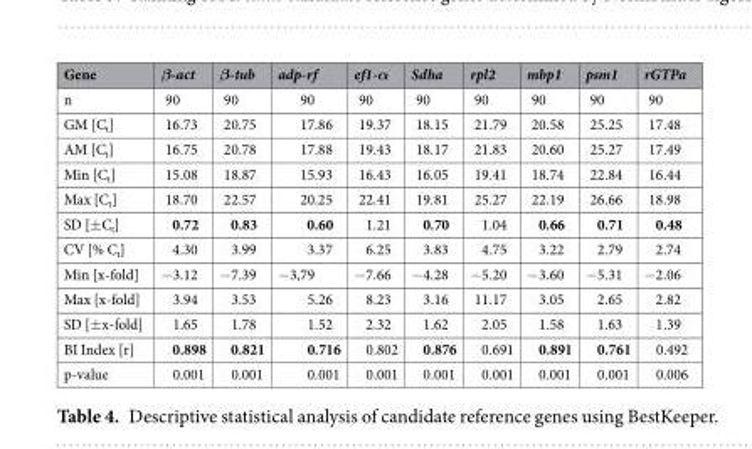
<table><thead><tr><td>Gene</td><td>β-act</td><td>β-tub</td><td>adp-rf</td><td>ef1-α</td><td>Sdha</td><td>rpl2</td><td>mbp1</td><td>psm1</td><td>rGTPa</td></tr></thead><tbody><tr><td>n</td><td>90</td><td>90</td><td>90</td><td>90</td><td>90</td><td>90</td><td>90</td><td>90</td><td>90</td></tr><tr><td>GM [C<sub>t</sub>]</td><td>16.73</td><td>20.75</td><td>17.86</td><td>19.37</td><td>18.15</td><td>21.79</td><td>20.58</td><td>25.25</td><td>17.48</td></tr><tr><td>AM [C<sub>t</sub>]</td><td>16.75</td><td>20.78</td><td>17.88</td><td>19.43</td><td>18.17</td><td>21.83</td><td>20.60</td><td>25.27</td><td>17.49</td></tr><tr><td>Min [C<sub>t</sub>]</td><td>15.08</td><td>18.87</td><td>15.93</td><td>16.43</td><td>16.05</td><td>19.41</td><td>18.74</td><td>22.84</td><td>16.44</td></tr><tr><td>Max [C<sub>t</sub>]</td><td>18.70</td><td>22.57</td><td>20.25</td><td>22.41</td><td>19.81</td><td>25.27</td><td>22.19</td><td>26.66</td><td>18.98</td></tr><tr><td>SD [±C<sub>t</sub>]</td><td>0.72</td><td>0.83</td><td>0.60</td><td>1.21</td><td>0.70</td><td>1.04</td><td>0.66</td><td>0.71</td><td>0.48</td></tr><tr><td>CV [% C<sub>t</sub>]</td><td>4.30</td><td>3.99</td><td>3.37</td><td>6.25</td><td>3.83</td><td>4.75</td><td>3.22</td><td>2.79</td><td>2.74</td></tr><tr><td>Min [x-fold]</td><td>−3.12</td><td>−7.39</td><td>−3,79</td><td>−7.66</td><td>−4.28</td><td>−5.20</td><td>−3.60</td><td>−5.31</td><td>−2.06</td></tr><tr><td>Max [x-fold]</td><td>3.94</td><td>3.53</td><td>5.26</td><td>8.23</td><td>3.16</td><td>11.17</td><td>3.05</td><td>2.65</td><td>2.82</td></tr><tr><td>SD [±x-fold]</td><td>1.65</td><td>1.78</td><td>1.52</td><td>2.32</td><td>1.62</td><td>2.05</td><td>1.58</td><td>1.63</td><td>1.39</td></tr><tr><td>BI Index [r]</td><td>0.898</td><td>0.821</td><td>0.716</td><td>0.802</td><td>0.876</td><td>0.691</td><td>0.891</td><td>0.761</td><td>0.492</td></tr><tr><td>p-value</td><td>0.001</td><td>0.001</td><td>0.001</td><td>0.001</td><td>0.001</td><td>0.001</td><td>0.001</td><td>0.001</td><td>0.006</td></tr></tbody></table>